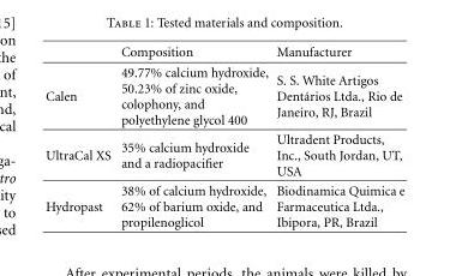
<table><thead><tr><td></td><td>Composition</td><td>Manufacturer</td></tr></thead><tbody><tr><td>Calen</td><td>49.77% calcium hydroxide, 50.23% of zinc oxide, colophony, and polyethylene glycol 400</td><td>S. S. White Artigos Dent´arios Ltda., Rio de Janeiro, RJ, Brazil</td></tr><tr><td>UltraCal XS</td><td>35% calcium hydroxide and a radiopacifier</td><td>Ultradent Products, Inc., South Jordan, UT, USA</td></tr><tr><td>Hydropast</td><td>38% of calcium hydroxide, 62% of barium oxide, and propilenoglicol</td><td>Biodinamica Quimica e Farmaceutica Ltda., Ibipora, PR, Brazil</td></tr></tbody></table>